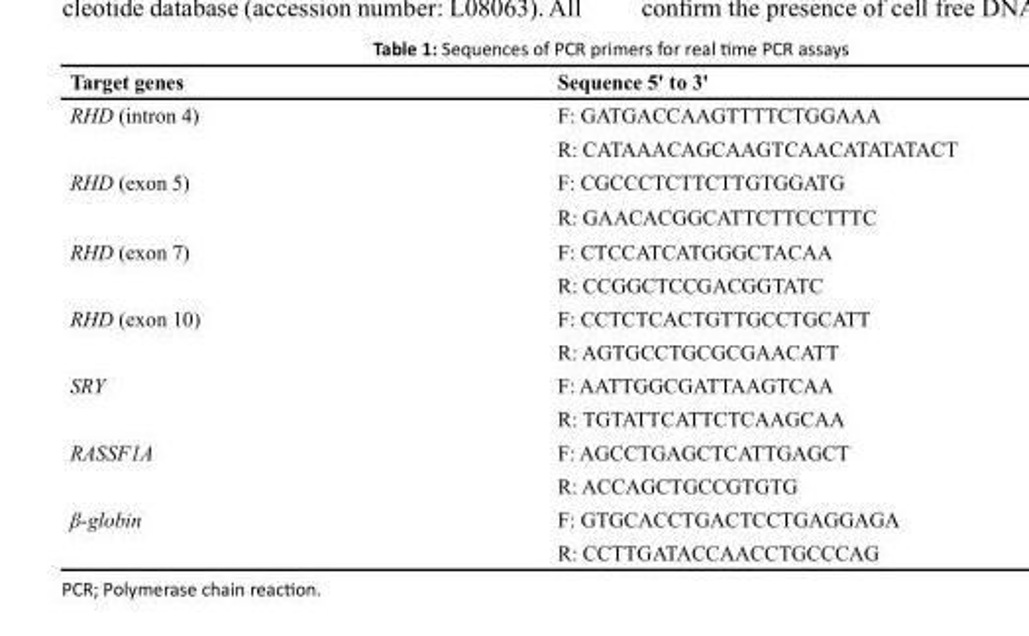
<table><thead><tr><td>Target genes</td><td>Sequence 5&#x27; to 3&#x27;</td></tr></thead><tbody><tr><td rowspan="2">RHD (intron 4)</td><td>F: GATGACCAAGTTTTCTGGAAA</td></tr><tr><td>R: CATAAACAGCAAGTCAACATATATACT</td></tr><tr><td rowspan="2">RHD (exon 5)</td><td>F: CGCCCTCTTCTTGTGGATG</td></tr><tr><td>R: GAACACGGCATTCTTCCTTTC</td></tr><tr><td rowspan="2">RHD (exon 7)</td><td>F: CTCCATCATGGGCTACAA</td></tr><tr><td>R: CCGGCTCCGACGGTATC</td></tr><tr><td rowspan="2">RHD (exon 10)</td><td>F: CCTCTCACTGTTGCCTGCATT</td></tr><tr><td>R: AGTGCCTGCGCGAACATT</td></tr><tr><td rowspan="2">SRY</td><td>F: AATTGGCGATTAAGTCAA</td></tr><tr><td>R: TGTATTCATTCTCAAGCAA</td></tr><tr><td rowspan="2">RASSF1A</td><td>F: AGCCTGAGCTCATTGAGCT</td></tr><tr><td>R: ACCAGCTGCCGTGTG</td></tr><tr><td rowspan="2">β-globin</td><td>F: GTGCACCTGACTCCTGAGGAGA</td></tr><tr><td>R: CCTTGATACCAACCTGCCCAG</td></tr></tbody></table>